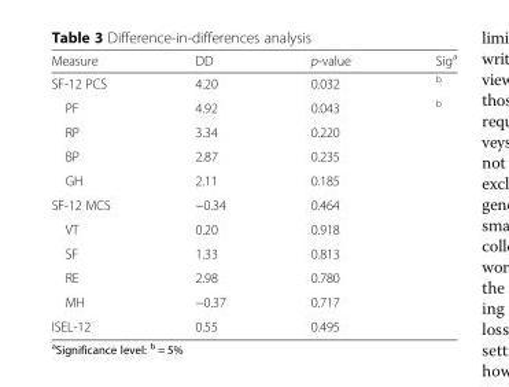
<table><thead><tr><td>Measure</td><td>DD</td><td>p-value</td><td>Sig<sup>a</sup></td></tr></thead><tbody><tr><td>SF-12 PCS</td><td>4.20</td><td>0.032</td><td><sup>b</sup></td></tr><tr><td>PF</td><td>4.92</td><td>0.043</td><td><sup>b</sup></td></tr><tr><td>RP</td><td>3.34</td><td>0.220</td><td></td></tr><tr><td>BP</td><td>2.87</td><td>0.235</td><td></td></tr><tr><td>GH</td><td>2.11</td><td>0.185</td><td></td></tr><tr><td>SF-12 MCS</td><td>−0.34</td><td>0.464</td><td></td></tr><tr><td>VT</td><td>0.20</td><td>0.918</td><td></td></tr><tr><td>SF</td><td>1.33</td><td>0.813</td><td></td></tr><tr><td>RE</td><td>2.98</td><td>0.780</td><td></td></tr><tr><td>MH</td><td>−0.37</td><td>0.717</td><td></td></tr><tr><td>ISEL-12</td><td>0.55</td><td>0.495</td><td></td></tr></tbody></table>